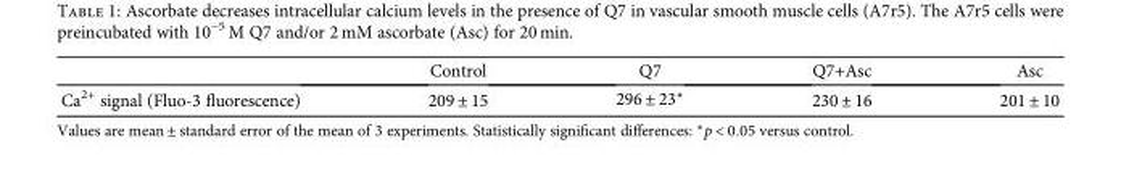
<table><thead><tr><td></td><td>Control</td><td>Q7</td><td>Q7+Asc</td><td>Asc</td></tr></thead><tbody><tr><td>Ca<sup>2+</sup> signal (Fluo-3 fluorescence)</td><td>209 ± 15</td><td>296 ± 23∗</td><td>230 ± 16</td><td>201 ± 10</td></tr></tbody></table>